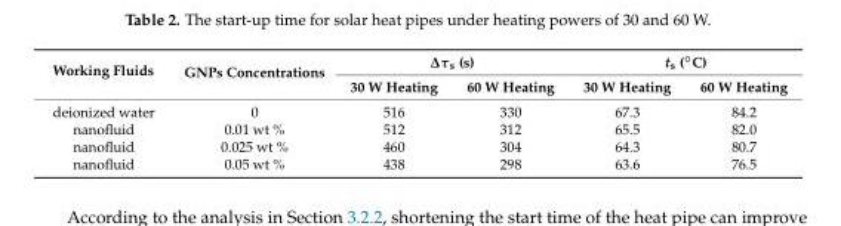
<table><thead><tr><td rowspan="2">Working Fluids</td><td rowspan="2">GNPs Concentrations</td><td colspan="2">∆τ<sub>s</sub> (s)</td><td colspan="2">ts (◦C)</td></tr><tr><td>30 W Heating</td><td>60 W Heating</td><td>30 W Heating</td><td>60 W Heating</td></tr></thead><tbody><tr><td>deionized water</td><td>0</td><td>516</td><td>330</td><td>67.3</td><td>84.2</td></tr><tr><td>nanofluid</td><td>0.01 wt %</td><td>512</td><td>312</td><td>65.5</td><td>82.0</td></tr><tr><td>nanofluid</td><td>0.025 wt %</td><td>460</td><td>304</td><td>64.3</td><td>80.7</td></tr><tr><td>nanofluid</td><td>0.05 wt %</td><td>438</td><td>298</td><td>63.6</td><td>76.5</td></tr></tbody></table>